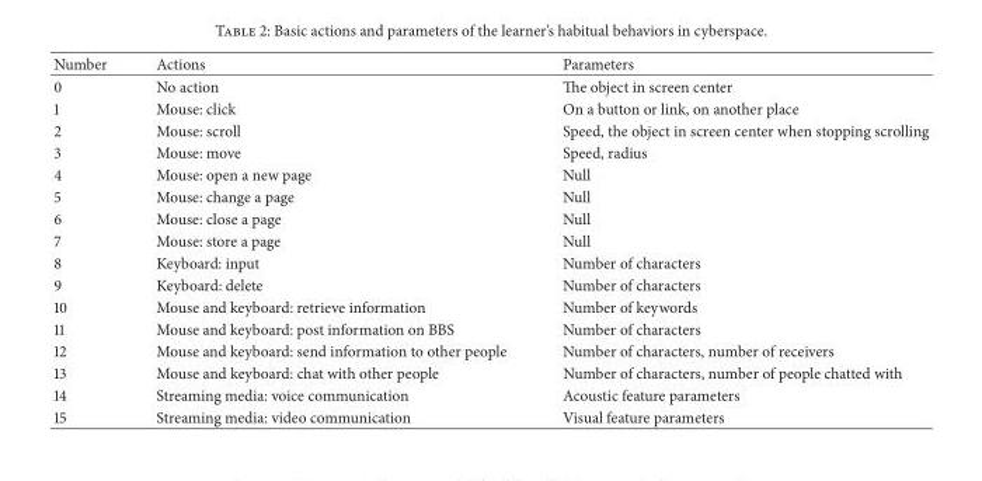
<table><thead><tr><td>Number</td><td>Actions</td><td>Parameters</td></tr></thead><tbody><tr><td>0</td><td>No action</td><td>The object in screen center</td></tr><tr><td>1</td><td>Mouse: click</td><td>On a button or link, on another place</td></tr><tr><td>2</td><td>Mouse: scroll</td><td>Speed, the object in screen center when stopping scrolling</td></tr><tr><td>3</td><td>Mouse: move</td><td>Speed, radius</td></tr><tr><td>4</td><td>Mouse: open a new page</td><td>Null</td></tr><tr><td>5</td><td>Mouse: change a page</td><td>Null</td></tr><tr><td>6</td><td>Mouse: close a page</td><td>Null</td></tr><tr><td>7</td><td>Mouse: store a page</td><td>Null</td></tr><tr><td>8</td><td>Keyboard: input</td><td>Number of characters</td></tr><tr><td>9</td><td>Keyboard: delete</td><td>Number of characters</td></tr><tr><td>10</td><td>Mouse and keyboard: retrieve information</td><td>Number of keywords</td></tr><tr><td>11</td><td>Mouse and keyboard: post information on BBS</td><td>Number of characters</td></tr><tr><td>12</td><td>Mouse and keyboard: send information to other people</td><td>Number of characters, number of receivers</td></tr><tr><td>13</td><td>Mouse and keyboard: chat with other people</td><td>Number of characters, number of people chatted with</td></tr><tr><td>14</td><td>Streaming media: voice communication</td><td>Acoustic feature parameters</td></tr><tr><td>15</td><td>Streaming media: video communication</td><td>Visual feature parameters</td></tr></tbody></table>